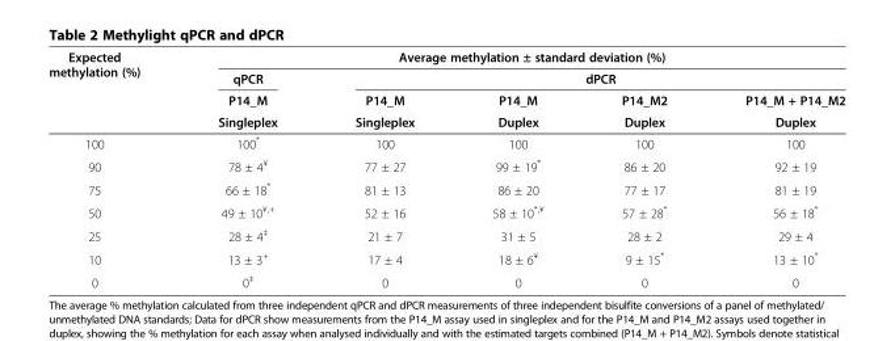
<table><thead><tr><td rowspan="4">Expected methylation (%)</td><td colspan="5">Average methylation ± standard deviation (%)</td></tr><tr><td rowspan="3">qPCR P14_M Singleplex</td><td colspan="4">dPCR</td></tr><tr><td rowspan="2">P14_M Singleplex</td><td rowspan="2">P14_M Duplex</td><td rowspan="2">P14_M2 Duplex</td><td rowspan="2">P14_M + P14_M2 Duplex</td></tr><tr></tr></thead><tbody><tr><td>100</td><td>100*</td><td>100</td><td>100</td><td>100</td><td>100</td></tr><tr><td>90</td><td>78 ± 4<sup>¥</sup></td><td>77 ± 27</td><td>99 ± 19*</td><td>86 ± 20</td><td>92 ± 19</td></tr><tr><td>75</td><td>66 ± 18*</td><td>81 ± 13</td><td>86 ± 20</td><td>77 ± 17</td><td>81 ± 19</td></tr><tr><td>50</td><td>49 ± 10<sup>¥,+</sup></td><td>52 ± 16</td><td>58 ± 10<sup>*,¥</sup></td><td>57 ± 28*</td><td>56 ± 18*</td></tr><tr><td>25</td><td>28 ± 4<sup>‡</sup></td><td>21 ± 7</td><td>31 ± 5</td><td>28 ± 2</td><td>29 ± 4</td></tr><tr><td>10</td><td>13 ± 3<sup>+</sup></td><td>17 ± 4</td><td>18 ± 6<sup>¥</sup></td><td>9 ± 15*</td><td>13 ± 10*</td></tr><tr><td>0</td><td>0<sup>‡</sup></td><td>0</td><td>0</td><td>0</td><td>0</td></tr></tbody></table>